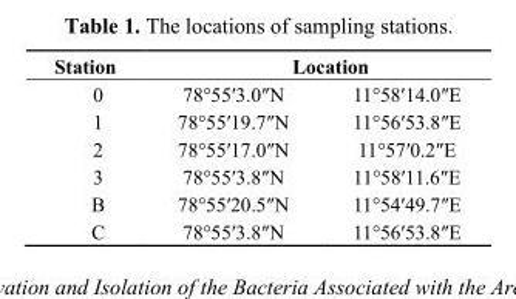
<table><thead><tr><td rowspan="2">Station 0</td><td colspan="2">Location</td></tr><tr><td>78°55′3.0″N</td><td>11°58′14.0″E</td></tr></thead><tbody><tr><td>1</td><td>78°55′19.7″N</td><td>11°56′53.8″E</td></tr><tr><td>2</td><td>78°55′17.0″N</td><td>11°57′0.2″E</td></tr><tr><td>3</td><td>78°55′3.8″N</td><td>11°58′11.6″E</td></tr><tr><td>B</td><td>78°55′20.5″N</td><td>11°54′49.7″E</td></tr><tr><td>C</td><td>78°55′3.8″N</td><td>11°56′53.8″E</td></tr></tbody></table>